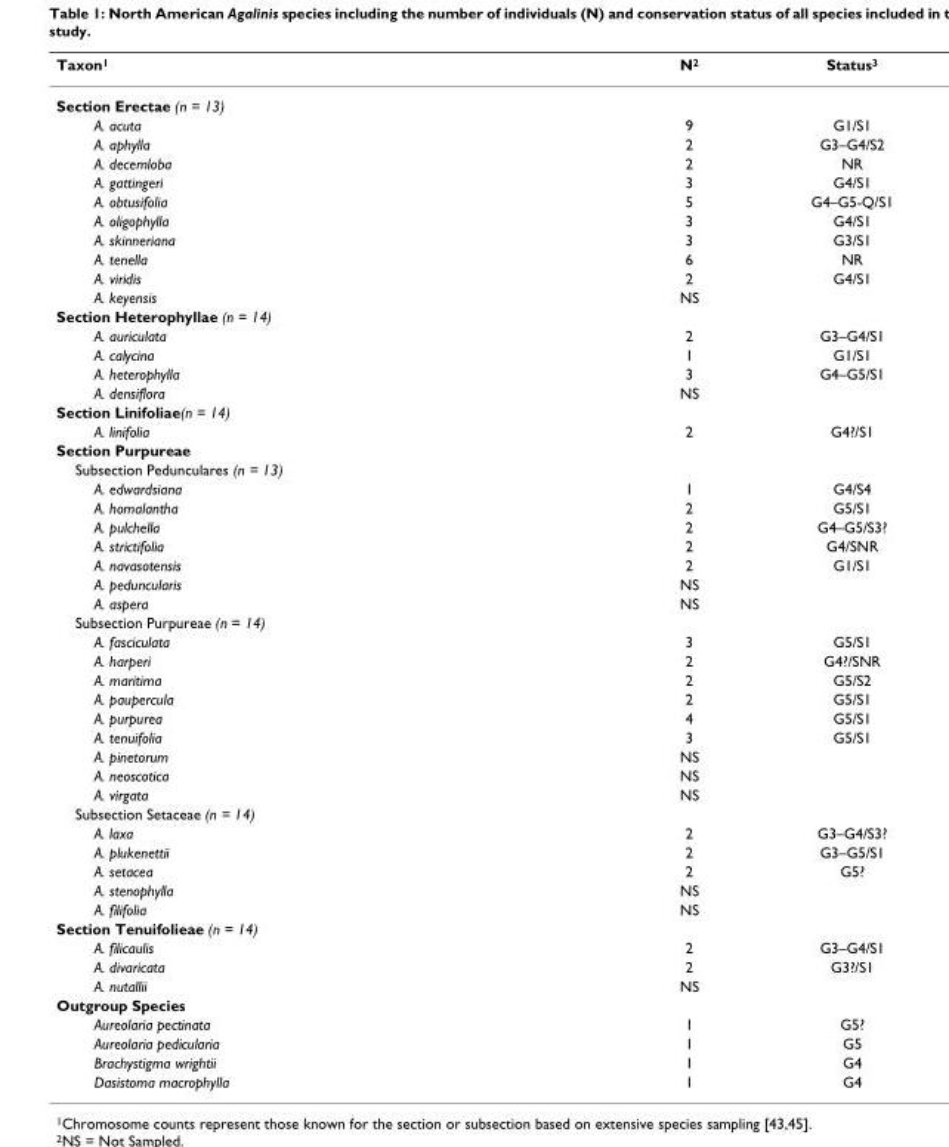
<table><thead><tr><td>Taxon<sup>1</sup></td><td>N<sup>2</sup></td><td>Status<sup>3</sup></td></tr></thead><tbody><tr><td colspan="3">Section Erectae (n = 13)</td></tr><tr><td>A. acuta</td><td>9</td><td>G1/S1</td></tr><tr><td>A. aphylla</td><td>2</td><td>G3–G4/S2</td></tr><tr><td>A. decemloba</td><td>2</td><td>NR</td></tr><tr><td>A. gattingeri</td><td>3</td><td>G4/S1</td></tr><tr><td>A. obtusifolia</td><td>5</td><td>G4–G5-Q/S1</td></tr><tr><td>A. oligophylla</td><td>3</td><td>G4/S1</td></tr><tr><td>A. skinneriana</td><td>3</td><td>G3/S1</td></tr><tr><td>A. tenella</td><td>6</td><td>NR</td></tr><tr><td>A. viridis</td><td>2</td><td>G4/S1</td></tr><tr><td>A. keyensis</td><td>NS</td><td></td></tr><tr><td colspan="3">Section Heterophyllae (n = 14)</td></tr><tr><td>A. auriculata</td><td>2</td><td>G3–G4/S1</td></tr><tr><td>A. calycina</td><td>1</td><td>G1/S1</td></tr><tr><td>A. heterophylla</td><td>3</td><td>G4–G5/S1</td></tr><tr><td>A. densiflora</td><td>NS</td><td></td></tr><tr><td colspan="3">Section Linifoliae(n = 14)</td></tr><tr><td>A. linifolia</td><td>2</td><td>G4?/S1</td></tr><tr><td colspan="3">Section Purpureae</td></tr><tr><td colspan="3">Subsection Pedunculares (n = 13)</td></tr><tr><td>A. edwardsiana</td><td>1</td><td>G4/S4</td></tr><tr><td>A. homalantha</td><td>2</td><td>G5/S1</td></tr><tr><td>A. pulchella</td><td>2</td><td>G4–G5/S3?</td></tr><tr><td>A. strictifolia</td><td>2</td><td>G4/SNR</td></tr><tr><td>A. navasotensis</td><td>2</td><td>G1/S1</td></tr><tr><td>A. peduncularis</td><td>NS</td><td></td></tr><tr><td>A. aspera</td><td>NS</td><td></td></tr><tr><td colspan="3">Subsection Purpureae (n = 14)</td></tr><tr><td>A. fasciculata</td><td>3</td><td>G5/S1</td></tr><tr><td>A. harperi</td><td>2</td><td>G4?/SNR</td></tr><tr><td>A. maritima</td><td>2</td><td>G5/S2</td></tr><tr><td>A. paupercula</td><td>2</td><td>G5/S1</td></tr><tr><td>A. purpurea</td><td>4</td><td>G5/S1</td></tr><tr><td>A. tenuifolia</td><td>3</td><td>G5/S1</td></tr><tr><td>A. pinetorum</td><td>NS</td><td></td></tr><tr><td>A. neoscotica</td><td>NS</td><td></td></tr><tr><td>A. virgata</td><td>NS</td><td></td></tr><tr><td colspan="3">Subsection Setaceae (n = 14)</td></tr><tr><td>A. laxa</td><td>2</td><td>G3–G4/S3?</td></tr><tr><td>A. plukenettii</td><td>2</td><td>G3–G5/S1</td></tr><tr><td>A. setacea</td><td>2</td><td>G5?</td></tr><tr><td>A. stenophylla</td><td>NS</td><td></td></tr><tr><td>A. filifolia</td><td>NS</td><td></td></tr><tr><td colspan="3">Section Tenuifolieae (n = 14)</td></tr><tr><td>A. filicaulis</td><td>2</td><td>G3–G4/S1</td></tr><tr><td>A. divaricata</td><td>2</td><td>G3?/S1</td></tr><tr><td>A. nutallii</td><td>NS</td><td></td></tr><tr><td colspan="3">Outgroup Species</td></tr><tr><td>Aureolaria pectinata</td><td>1</td><td>G5?</td></tr><tr><td>Aureolaria pedicularia</td><td>1</td><td>G5</td></tr><tr><td>Brachystigma wrightii</td><td>1</td><td>G4</td></tr><tr><td>Dasistoma macrophylla</td><td>1</td><td>G4</td></tr></tbody></table>